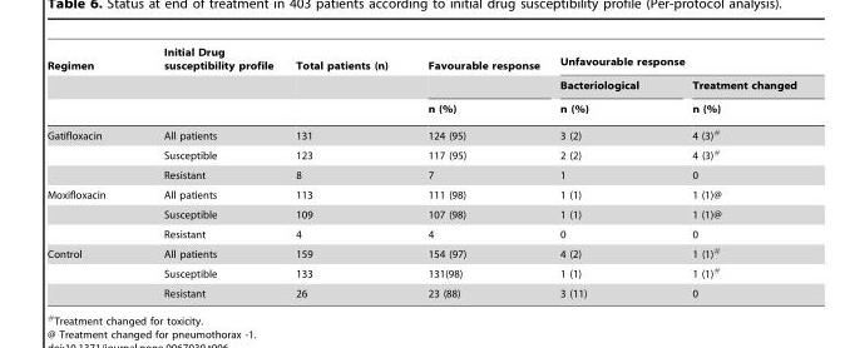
<table><thead><tr><td rowspan="3">Regimen</td><td rowspan="3">Initial Drug susceptibility profile</td><td rowspan="3">Total patients (n)</td><td rowspan="3">Favourable response n (%)</td><td colspan="2">Unfavourable response</td></tr><tr><td rowspan="2">Bacteriological n (%)</td><td rowspan="2">Treatment changed n (%)</td></tr><tr></tr></thead><tbody><tr><td rowspan="3">Gatifloxacin</td><td>All patients</td><td>131</td><td>124 (95)</td><td>3 (2)</td><td>4 (3)#</td></tr><tr><td>Susceptible</td><td>123</td><td>117 (95)</td><td>2 (2)</td><td>4 (3)#</td></tr><tr><td>Resistant</td><td>8</td><td>7</td><td>1</td><td>0</td></tr><tr><td rowspan="3">Moxifloxacin</td><td>All patients</td><td>113</td><td>111 (98)</td><td>1 (1)</td><td>1 (1)@</td></tr><tr><td>Susceptible</td><td>109</td><td>107 (98)</td><td>1 (1)</td><td>1 (1)@</td></tr><tr><td>Resistant</td><td>4</td><td>4</td><td>0</td><td>0</td></tr><tr><td rowspan="3">Control</td><td>All patients</td><td>159</td><td>154 (97)</td><td>4 (2)</td><td>1 (1)#</td></tr><tr><td>Susceptible</td><td>133</td><td>131(98)</td><td>1 (1)</td><td>1 (1)#</td></tr><tr><td>Resistant</td><td>26</td><td>23 (88)</td><td>3 (11)</td><td>0</td></tr></tbody></table>